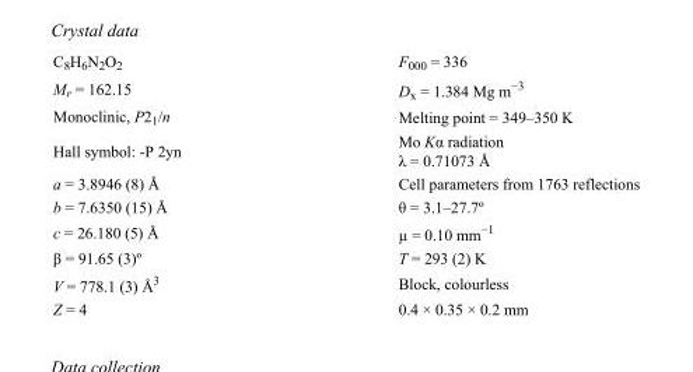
<table><tbody><tr><td>C<sub>8</sub>H<sub>6</sub>N<sub>2</sub>O<sub>2</sub></td><td>F<sub>000</sub> = 336</td></tr><tr><td>M<sub>r</sub> = 162.15</td><td>D<sub>x</sub> = 1.384 Mg m<sup>−3</sup></td></tr><tr><td>Monoclinic, P2<sub>1</sub>/n</td><td>Melting point = 349–350 K</td></tr><tr><td>Hall symbol: -P 2yn</td><td>Mo Kα radiation λ = 0.71073 Å</td></tr><tr><td>a = 3.8946 (8) Å</td><td>Cell parameters from 1763 reflections</td></tr><tr><td>b = 7.6350 (15) Å</td><td>θ = 3.1–27.7º</td></tr><tr><td>c = 26.180 (5) Å</td><td>µ = 0.10 mm<sup>−1</sup></td></tr><tr><td>β = 91.65 (3)º</td><td>T = 293 (2) K</td></tr><tr><td>V = 778.1 (3) Å<sup>3</sup></td><td>Block, colourless</td></tr><tr><td>Z = 4</td><td>0.4 × 0.35 × 0.2 mm</td></tr></tbody></table>